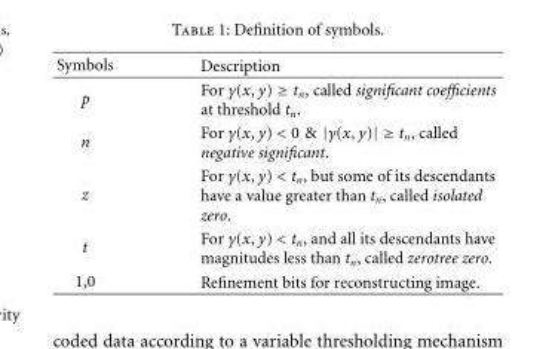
<table><thead><tr><td>Symbols</td><td>Description</td></tr></thead><tbody><tr><td>p</td><td>For γ(x, y) ≥ t<sub>n</sub>, called significant coefficients at threshold t<sub>n</sub>.</td></tr><tr><td>n</td><td>For γ(x, y) &lt; 0 &amp; |γ(x, y)| ≥ t<sub>n</sub>, called negative significant.</td></tr><tr><td>z</td><td>For γ(x, y) &lt; t<sub>n</sub>, but some of its descendants have a value greater than t<sub>n</sub>, called isolated zero.</td></tr><tr><td>t</td><td>For γ(x, y) &lt; t<sub>n</sub>, and all its descendants have magnitudes less than t<sub>n</sub>, called zerotree zero.</td></tr><tr><td>1,0</td><td>Refinement bits for reconstructing image.</td></tr></tbody></table>